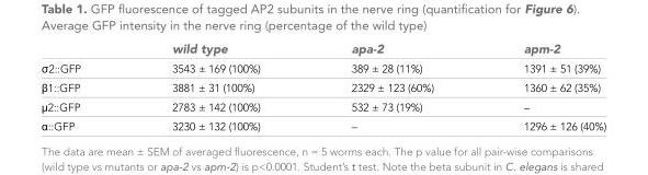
<table><thead><tr><td></td><td>wild type</td><td>apa-2</td><td>apm-2</td></tr></thead><tbody><tr><td>σ2::GFP</td><td>3543 ± 169 (100%)</td><td>389 ± 28 (11%)</td><td>1391 ± 51 (39%)</td></tr><tr><td>β1::GFP</td><td>3881 ± 31 (100%)</td><td>2329 ± 123 (60%)</td><td>1360 ± 62 (35%)</td></tr><tr><td>μ2::GFP</td><td>2783 ± 142 (100%)</td><td>532 ± 73 (19%)</td><td>–</td></tr><tr><td>α::GFP</td><td>3230 ± 132 (100%)</td><td>–</td><td>1296 ± 126 (40%)</td></tr></tbody></table>